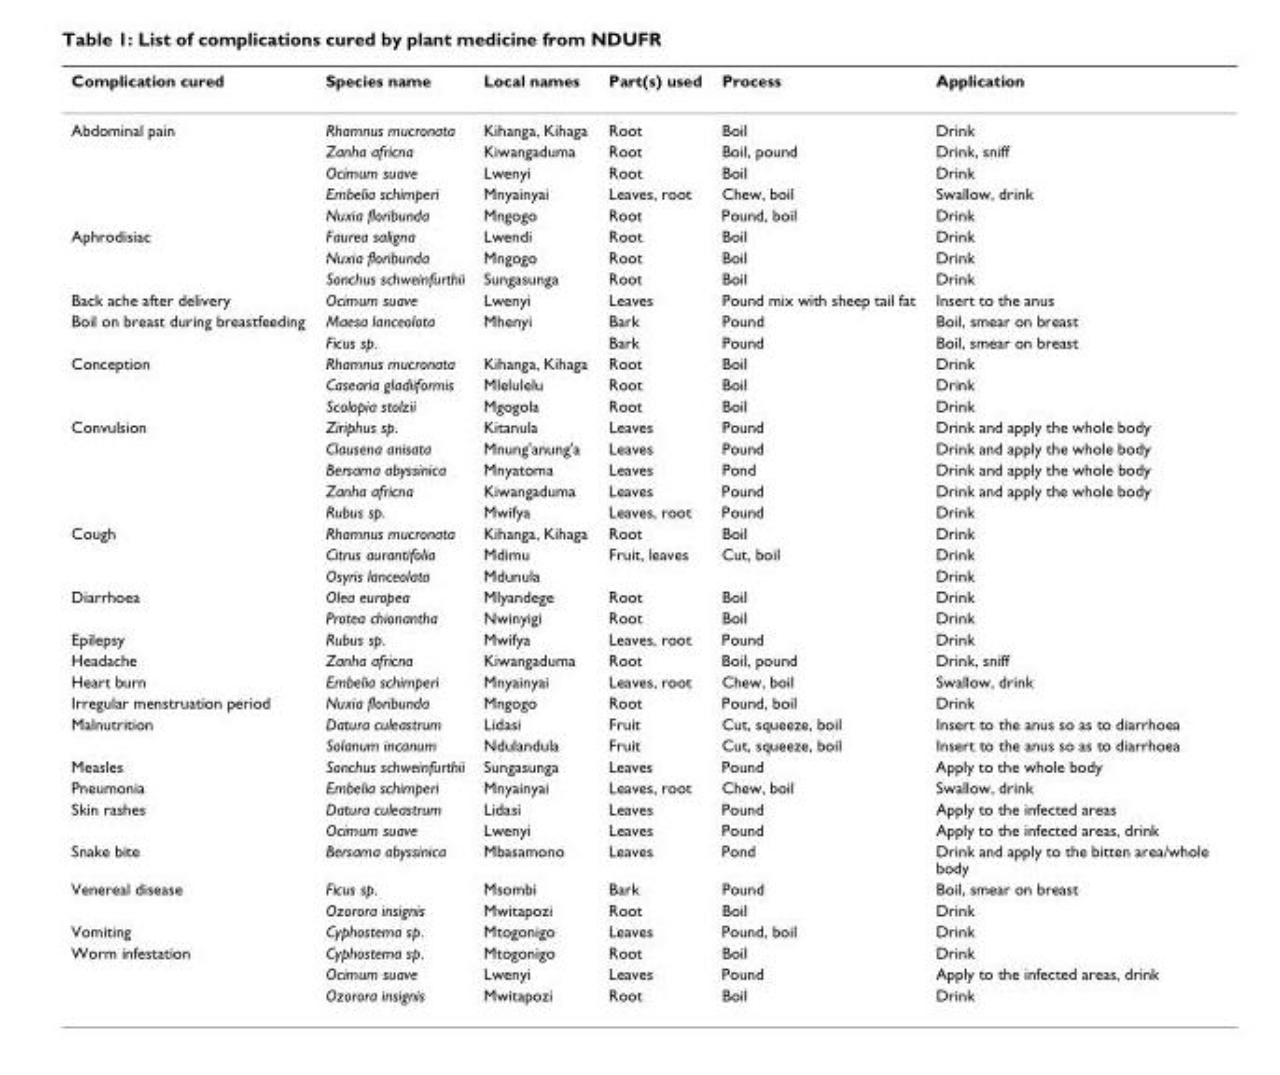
<table><thead><tr><td>Complication cured</td><td>Species name</td><td>Local names</td><td>Part(s) used</td><td>Process</td><td>Application</td></tr></thead><tbody><tr><td rowspan="5">Abdominal pain</td><td>Rhamnus mucronata</td><td>Kihanga, Kihaga</td><td>Root</td><td>Boil</td><td>Drink</td></tr><tr><td>Zanha africna</td><td>Kiwangaduma</td><td>Root</td><td>Boil, pound</td><td>Drink, sniff</td></tr><tr><td>Ocimum suave</td><td>Lwenyi</td><td>Root</td><td>Boil</td><td>Drink</td></tr><tr><td>Embelia schimperi</td><td>Mnyainyai</td><td>Leaves, root</td><td>Chew, boil</td><td>Swallow, drink</td></tr><tr><td>Nuxia floribunda</td><td>Mngogo</td><td>Root</td><td>Pound, boil</td><td>Drink</td></tr><tr><td rowspan="3">Aphrodisiac</td><td>Faurea saligna</td><td>Lwendi</td><td>Root</td><td>Boil</td><td>Drink</td></tr><tr><td>Nuxia floribunda</td><td>Mngogo</td><td>Root</td><td>Boil</td><td>Drink</td></tr><tr><td>Sonchus schweinfurthii</td><td>Sungasunga</td><td>Root</td><td>Boil</td><td>Drink</td></tr><tr><td>Back ache after delivery</td><td>Ocimum suave</td><td>Lwenyi</td><td>Leaves</td><td>Pound mix with sheep tail fat</td><td>Insert to the anus</td></tr><tr><td rowspan="2">Boil on breast during breastfeeding</td><td>Maesa lanceolota</td><td>Mhenyi</td><td>Bark</td><td>Pound</td><td>Boil, smear on breast</td></tr><tr><td>Ficus sp.</td><td></td><td>Bark</td><td>Pound</td><td>Boil, smear on breast</td></tr><tr><td rowspan="3">Conception</td><td>Rhamnus mucronata</td><td>Kihanga, Kihaga</td><td>Root</td><td>Boil</td><td>Drink</td></tr><tr><td>Casearia gladiiformis</td><td>Mlelulelu</td><td>Root</td><td>Boil</td><td>Drink</td></tr><tr><td>Scolopia stolzii</td><td>Mgogola</td><td>Root</td><td>Boil</td><td>Drink</td></tr><tr><td rowspan="5">Convulsion</td><td>Ziriphus sp.</td><td>Kitanula</td><td>Leaves</td><td>Pound</td><td>Drink and apply the whole body</td></tr><tr><td>Clausena anisata</td><td>Mnung&#x27;anung&#x27;a</td><td>Leaves</td><td>Pound</td><td>Drink and apply the whole body</td></tr><tr><td>Bersama abyssinica</td><td>Mnyatoma</td><td>Leaves</td><td>Pond</td><td>Drink and apply the whole body</td></tr><tr><td>Zanha africna</td><td>Kiwangaduma</td><td>Leaves</td><td>Pound</td><td>Drink and apply the whole body</td></tr><tr><td>Rubus sp.</td><td>Mwifya</td><td>Leaves, root</td><td>Pound</td><td>Drink</td></tr><tr><td rowspan="3">Cough</td><td>Rhamnus mucronata</td><td>Kihanga, Kihaga</td><td>Root</td><td>Boil</td><td>Drink</td></tr><tr><td>Citrus aurantifolia</td><td>Mdimu</td><td>Fruit, leaves</td><td>Cut, boil</td><td>Drink</td></tr><tr><td>Osyris lanceolata</td><td>Mdunula</td><td></td><td></td><td>Drink</td></tr><tr><td rowspan="2">Diarrhoea</td><td>Olea europea</td><td>Mlyandege</td><td>Root</td><td>Boil</td><td>Drink</td></tr><tr><td>Protea chionantha</td><td>Nwinyigi</td><td>Root</td><td>Boil</td><td>Drink</td></tr><tr><td>Epilepsy</td><td>Rubus sp.</td><td>Mwifya</td><td>Leaves, root</td><td>Pound</td><td>Drink</td></tr><tr><td>Headache</td><td>Zanha africna</td><td>Kiwangaduma</td><td>Root</td><td>Boil, pound</td><td>Drink, sniff</td></tr><tr><td>Heart burn</td><td>Embelia schimperi</td><td>Mnyainyai</td><td>Leaves, root</td><td>Chew, boil</td><td>Swallow, drink</td></tr><tr><td>Irregular menstruation period</td><td>Nuxia floribunda</td><td>Mngogo</td><td>Root</td><td>Pound, boil</td><td>Drink</td></tr><tr><td rowspan="2">Malnutrition</td><td>Datura culeastrum</td><td>Lidasi</td><td>Fruit</td><td>Cut, squeeze, boil</td><td>Insert to the anus so as to diarrhoea</td></tr><tr><td>Solanum incanum</td><td>Ndulandula</td><td>Fruit</td><td>Cut, squeeze, boil</td><td>Insert to the anus so as to diarrhoea</td></tr><tr><td>Measles</td><td>Sonchus schweinfurthii</td><td>Sungasunga</td><td>Leaves</td><td>Pound</td><td>Apply to the whole body</td></tr><tr><td>Pneumonia</td><td>Embelia schimperi</td><td>Mnyainyai</td><td>Leaves, root</td><td>Chew, boil</td><td>Swallow, drink</td></tr><tr><td rowspan="2">Skin rashes</td><td>Datura culeastrum</td><td>Lidasi</td><td>Leaves</td><td>Pound</td><td>Apply to the infected areas</td></tr><tr><td>Ocimum suave</td><td>Lwenyi</td><td>Leaves</td><td>Pound</td><td>Apply to the infected areas, drink</td></tr><tr><td>Snake bite</td><td>Bersama abyssinica</td><td>Mbasamono</td><td>Leaves</td><td>Pond</td><td>Drink and apply to the bitten area/whole body</td></tr><tr><td rowspan="2">Venereal disease</td><td>Ficus sp.</td><td>Msombi</td><td>Bark</td><td>Pound</td><td>Boil, smear on breast</td></tr><tr><td>Ozorora insignis</td><td>Mwitapozi</td><td>Root</td><td>Boil</td><td>Drink</td></tr><tr><td>Vomiting</td><td>Cyphostema sp.</td><td>Mtogonigo</td><td>Leaves</td><td>Pound, boil</td><td>Drink</td></tr><tr><td rowspan="3">Worm infestation</td><td>Cyphostema sp.</td><td>Mtogonigo</td><td>Root</td><td>Boil</td><td>Drink</td></tr><tr><td>Ocimum suave</td><td>Lwenyi</td><td>Leaves</td><td>Pound</td><td>Apply to the infected areas, drink</td></tr><tr><td>Ozorora insignis</td><td>Mwitapozi</td><td>Root</td><td>Boil</td><td>Drink</td></tr></tbody></table>